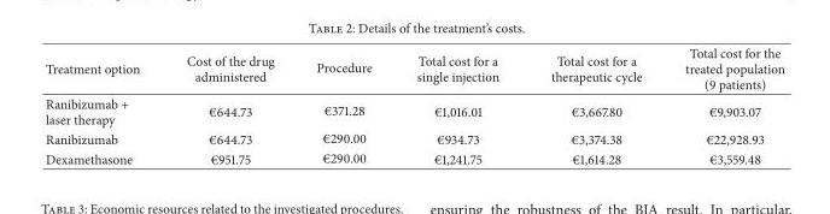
<table><thead><tr><td>Treatment option</td><td>Cost of the drug administered</td><td>Procedure</td><td>Total cost for a single injection</td><td>Total cost for a therapeutic cycle</td><td>Total cost for the treated population (9 patients)</td></tr></thead><tbody><tr><td>Ranibizumab + laser therapy</td><td>€644.73</td><td>€371.28</td><td>€1,016.01</td><td>€3,667.80</td><td>€9,903.07</td></tr><tr><td>Ranibizumab</td><td>€644.73</td><td>€290.00</td><td>€934.73</td><td>€3,374.38</td><td>€22,928.93</td></tr><tr><td>Dexamethasone</td><td>€951.75</td><td>€290.00</td><td>€1,241.75</td><td>€1,614.28</td><td>€3,559.48</td></tr></tbody></table>